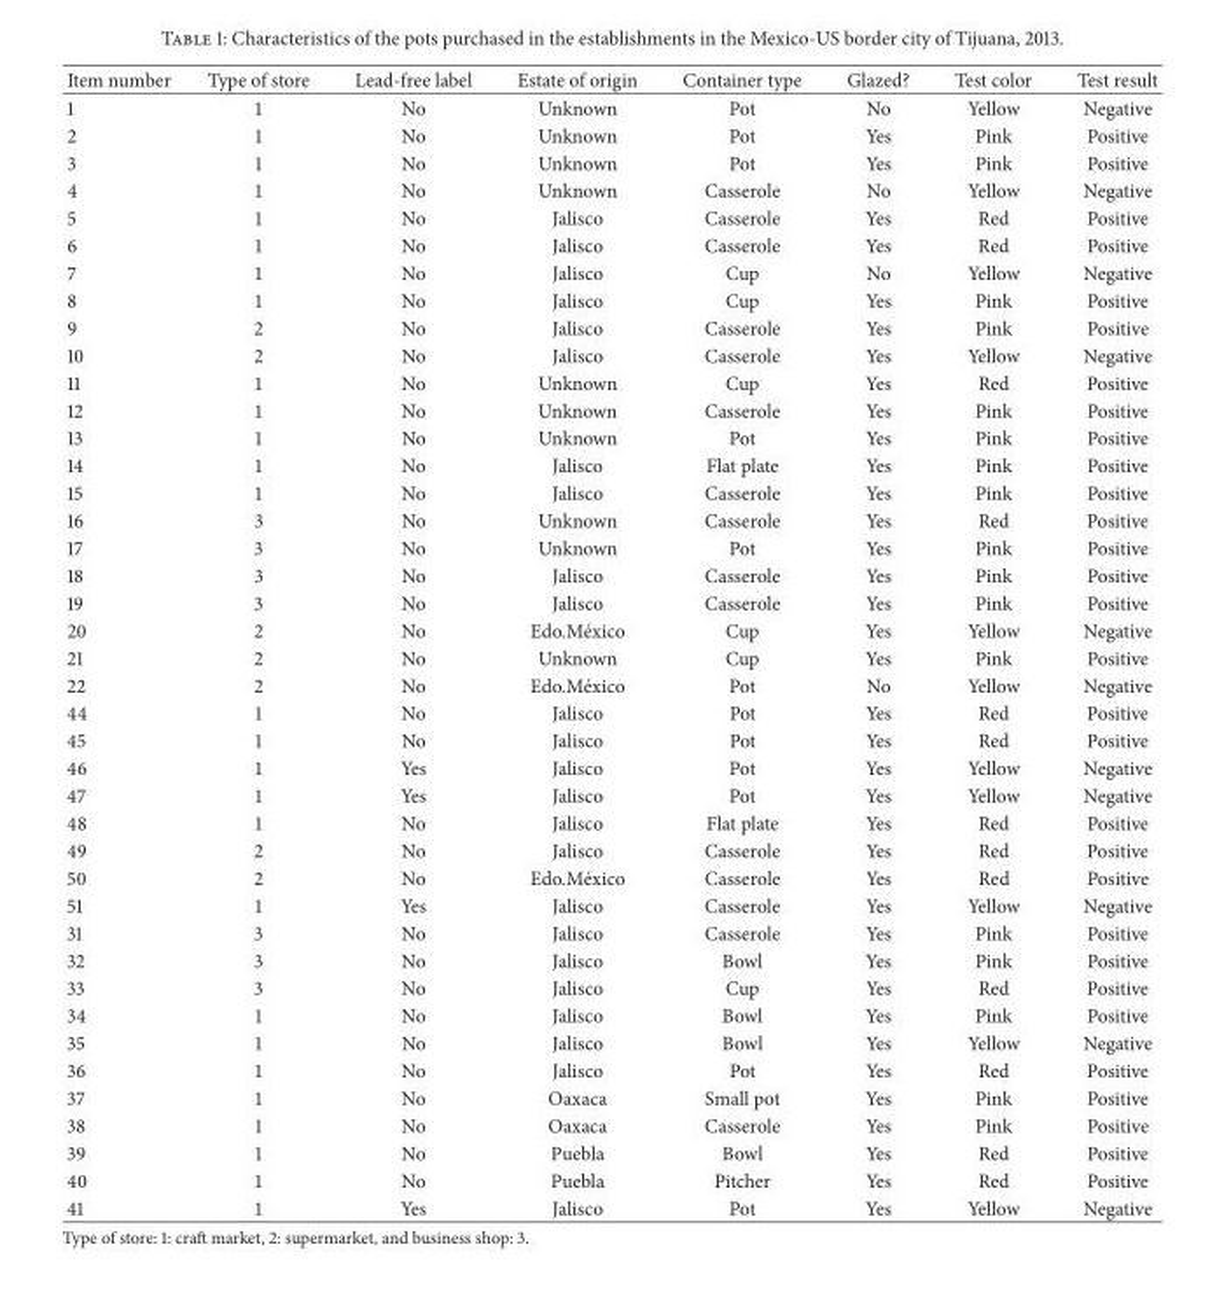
<table><thead><tr><td>Item number</td><td>Type of store</td><td>Lead-free label</td><td>Estate of origin</td><td>Container type</td><td>Glazed?</td><td>Test color</td><td>Test result</td></tr></thead><tbody><tr><td>1</td><td>1</td><td>No</td><td>Unknown</td><td>Pot</td><td>No</td><td>Yellow</td><td>Negative</td></tr><tr><td>2</td><td>1</td><td>No</td><td>Unknown</td><td>Pot</td><td>Yes</td><td>Pink</td><td>Positive</td></tr><tr><td>3</td><td>1</td><td>No</td><td>Unknown</td><td>Pot</td><td>Yes</td><td>Pink</td><td>Positive</td></tr><tr><td>4</td><td>1</td><td>No</td><td>Unknown</td><td>Casserole</td><td>No</td><td>Yellow</td><td>Negative</td></tr><tr><td>5</td><td>1</td><td>No</td><td>Jalisco</td><td>Casserole</td><td>Yes</td><td>Red</td><td>Positive</td></tr><tr><td>6</td><td>1</td><td>No</td><td>Jalisco</td><td>Casserole</td><td>Yes</td><td>Red</td><td>Positive</td></tr><tr><td>7</td><td>1</td><td>No</td><td>Jalisco</td><td>Cup</td><td>No</td><td>Yellow</td><td>Negative</td></tr><tr><td>8</td><td>1</td><td>No</td><td>Jalisco</td><td>Cup</td><td>Yes</td><td>Pink</td><td>Positive</td></tr><tr><td>9</td><td>2</td><td>No</td><td>Jalisco</td><td>Casserole</td><td>Yes</td><td>Pink</td><td>Positive</td></tr><tr><td>10</td><td>2</td><td>No</td><td>Jalisco</td><td>Casserole</td><td>Yes</td><td>Yellow</td><td>Negative</td></tr><tr><td>11</td><td>1</td><td>No</td><td>Unknown</td><td>Cup</td><td>Yes</td><td>Red</td><td>Positive</td></tr><tr><td>12</td><td>1</td><td>No</td><td>Unknown</td><td>Casserole</td><td>Yes</td><td>Pink</td><td>Positive</td></tr><tr><td>13</td><td>1</td><td>No</td><td>Unknown</td><td>Pot</td><td>Yes</td><td>Pink</td><td>Positive</td></tr><tr><td>14</td><td>1</td><td>No</td><td>Jalisco</td><td>Flat plate</td><td>Yes</td><td>Pink</td><td>Positive</td></tr><tr><td>15</td><td>1</td><td>No</td><td>Jalisco</td><td>Casserole</td><td>Yes</td><td>Pink</td><td>Positive</td></tr><tr><td>16</td><td>3</td><td>No</td><td>Unknown</td><td>Casserole</td><td>Yes</td><td>Red</td><td>Positive</td></tr><tr><td>17</td><td>3</td><td>No</td><td>Unknown</td><td>Pot</td><td>Yes</td><td>Pink</td><td>Positive</td></tr><tr><td>18</td><td>3</td><td>No</td><td>Jalisco</td><td>Casserole</td><td>Yes</td><td>Pink</td><td>Positive</td></tr><tr><td>19</td><td>3</td><td>No</td><td>Jalisco</td><td>Casserole</td><td>Yes</td><td>Pink</td><td>Positive</td></tr><tr><td>20</td><td>2</td><td>No</td><td>Edo.M´exico</td><td>Cup</td><td>Yes</td><td>Yellow</td><td>Negative</td></tr><tr><td>21</td><td>2</td><td>No</td><td>Unknown</td><td>Cup</td><td>Yes</td><td>Pink</td><td>Positive</td></tr><tr><td>22</td><td>2</td><td>No</td><td>Edo.M´exico</td><td>Pot</td><td>No</td><td>Yellow</td><td>Negative</td></tr><tr><td>44</td><td>1</td><td>No</td><td>Jalisco</td><td>Pot</td><td>Yes</td><td>Red</td><td>Positive</td></tr><tr><td>45</td><td>1</td><td>No</td><td>Jalisco</td><td>Pot</td><td>Yes</td><td>Red</td><td>Positive</td></tr><tr><td>46</td><td>1</td><td>Yes</td><td>Jalisco</td><td>Pot</td><td>Yes</td><td>Yellow</td><td>Negative</td></tr><tr><td>47</td><td>1</td><td>Yes</td><td>Jalisco</td><td>Pot</td><td>Yes</td><td>Yellow</td><td>Negative</td></tr><tr><td>48</td><td>1</td><td>No</td><td>Jalisco</td><td>Flat plate</td><td>Yes</td><td>Red</td><td>Positive</td></tr><tr><td>49</td><td>2</td><td>No</td><td>Jalisco</td><td>Casserole</td><td>Yes</td><td>Red</td><td>Positive</td></tr><tr><td>50</td><td>2</td><td>No</td><td>Edo.M´exico</td><td>Casserole</td><td>Yes</td><td>Red</td><td>Positive</td></tr><tr><td>51</td><td>1</td><td>Yes</td><td>Jalisco</td><td>Casserole</td><td>Yes</td><td>Yellow</td><td>Negative</td></tr><tr><td>31</td><td>3</td><td>No</td><td>Jalisco</td><td>Casserole</td><td>Yes</td><td>Pink</td><td>Positive</td></tr><tr><td>32</td><td>3</td><td>No</td><td>Jalisco</td><td>Bowl</td><td>Yes</td><td>Pink</td><td>Positive</td></tr><tr><td>33</td><td>3</td><td>No</td><td>Jalisco</td><td>Cup</td><td>Yes</td><td>Red</td><td>Positive</td></tr><tr><td>34</td><td>1</td><td>No</td><td>Jalisco</td><td>Bowl</td><td>Yes</td><td>Pink</td><td>Positive</td></tr><tr><td>35</td><td>1</td><td>No</td><td>Jalisco</td><td>Bowl</td><td>Yes</td><td>Yellow</td><td>Negative</td></tr><tr><td>36</td><td>1</td><td>No</td><td>Jalisco</td><td>Pot</td><td>Yes</td><td>Red</td><td>Positive</td></tr><tr><td>37</td><td>1</td><td>No</td><td>Oaxaca</td><td>Small pot</td><td>Yes</td><td>Pink</td><td>Positive</td></tr><tr><td>38</td><td>1</td><td>No</td><td>Oaxaca</td><td>Casserole</td><td>Yes</td><td>Pink</td><td>Positive</td></tr><tr><td>39</td><td>1</td><td>No</td><td>Puebla</td><td>Bowl</td><td>Yes</td><td>Red</td><td>Positive</td></tr><tr><td>40</td><td>1</td><td>No</td><td>Puebla</td><td>Pitcher</td><td>Yes</td><td>Red</td><td>Positive</td></tr><tr><td>41</td><td>1</td><td>Yes</td><td>Jalisco</td><td>Pot</td><td>Yes</td><td>Yellow</td><td>Negative</td></tr></tbody></table>